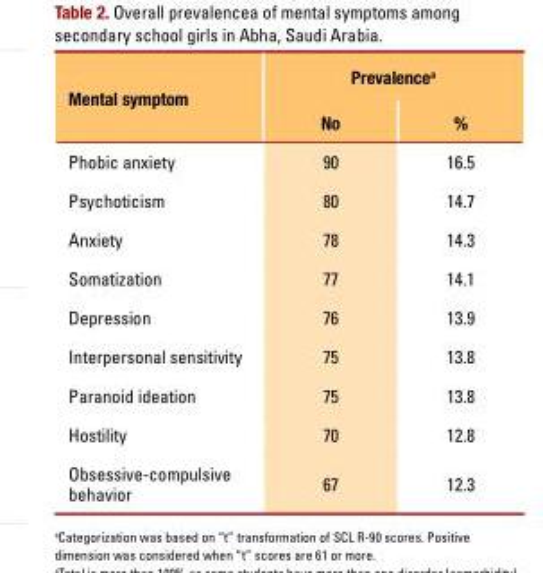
<table><thead><tr><td rowspan="2">Mental symptom</td><td colspan="2">Prevalence<sup>a</sup></td></tr><tr><td>No</td><td>%</td></tr></thead><tbody><tr><td>phobic anxiety</td><td>90</td><td>16.5</td></tr><tr><td>psychoticism</td><td>80</td><td>14.7</td></tr><tr><td>Anxiety</td><td>78</td><td>14.3</td></tr><tr><td>Somatization</td><td>77</td><td>14.1</td></tr><tr><td>Depression</td><td>76</td><td>13.9</td></tr><tr><td>interpersonal sensitivity</td><td>75</td><td>13.8</td></tr><tr><td>paranoid ideation</td><td>75</td><td>13.8</td></tr><tr><td>hostility</td><td>70</td><td>12.8</td></tr><tr><td>obsessive-compulsive behavior</td><td>67</td><td>12.3</td></tr></tbody></table>